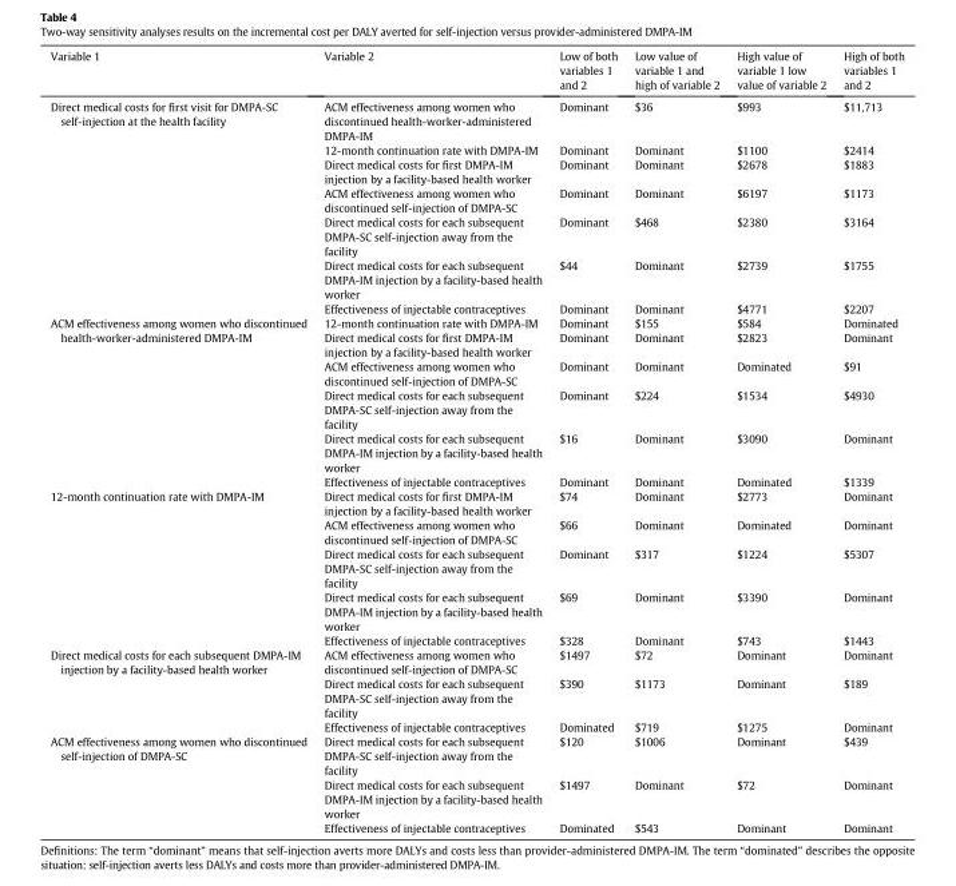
<table><thead><tr><td>Variable 1</td><td>Variable 2</td><td>Low of both variables 1 and 2</td><td>Low value of variable 1 and high of variable 2</td><td>High value of variable 1 low value of variable 2</td><td>High of both variables 1 and 2</td></tr></thead><tbody><tr><td rowspan="7">Direct medical costs for first visit for DMPA-SC self-injection at the health facility</td><td>ACM effectiveness among women who discontinued health-worker-administered DMPA-IM</td><td>Dominant</td><td>$36</td><td>$993</td><td>$11,713</td></tr><tr><td>12-month continuation rate with DMPA-IM</td><td>Dominant</td><td>Dominant</td><td>$1100</td><td>$2414</td></tr><tr><td>Direct medical costs for first DMPA-IM injection by a facility-based health worker</td><td>Dominant</td><td>Dominant</td><td>$2678</td><td>$1883</td></tr><tr><td>ACM effectiveness among women who discontinued self-injection of DMPA-SC</td><td>Dominant</td><td>Dominant</td><td>$6197</td><td>$1173</td></tr><tr><td>Direct medical costs for each subsequent DMPA-SC self-injection away from the facility</td><td>Dominant</td><td>$468</td><td>$2380</td><td>$3164</td></tr><tr><td>Direct medical costs for each subsequent DMPA-IM injection by a facility-based health worker</td><td>$44</td><td>Dominant</td><td>$2739</td><td>$1755</td></tr><tr><td>Effectiveness of injectable contraceptives</td><td>Dominant</td><td>Dominant</td><td>$4771</td><td>$2207</td></tr><tr><td rowspan="6">ACM effectiveness among women who discontinued health-worker-administered DMPA-IM</td><td>12-month continuation rate with DMPA-IM</td><td>Dominant</td><td>$155</td><td>$584</td><td>Dominated</td></tr><tr><td>Direct medical costs for first DMPA-IM injection by a facility-based health worker</td><td>Dominant</td><td>Dominant</td><td>$2823</td><td>Dominant</td></tr><tr><td>ACM effectiveness among women who discontinued self-injection of DMPA-SC</td><td>Dominant</td><td>Dominant</td><td>Dominated</td><td>$91</td></tr><tr><td>Direct medical costs for each subsequent DMPA-SC self-injection away from the facility</td><td>Dominant</td><td>$224</td><td>$1534</td><td>$4930</td></tr><tr><td>Direct medical costs for each subsequent DMPA-IM injection by a facility-based health worker</td><td>$16</td><td>Dominant</td><td>$3090</td><td>Dominant</td></tr><tr><td>Effectiveness of injectable contraceptives</td><td>Dominant</td><td>Dominant</td><td>Dominated</td><td>$1339</td></tr><tr><td rowspan="5">12-month continuation rate with DMPA-IM</td><td>Direct medical costs for first DMPA-IM injection by a facility-based health worker</td><td>$74</td><td>Dominant</td><td>$2773</td><td>Dominant</td></tr><tr><td>ACM effectiveness among women who discontinued self-injection of DMPA-SC</td><td>$66</td><td>Dominant</td><td>Dominated</td><td>Dominant</td></tr><tr><td>Direct medical costs for each subsequent DMPA-SC self-injection away from the facility</td><td>Dominant</td><td>$317</td><td>$1224</td><td>$5307</td></tr><tr><td>Direct medical costs for each subsequent DMPA-IM injection by a facility-based health worker</td><td>$69</td><td>Dominant</td><td>$3390</td><td>Dominant</td></tr><tr><td>Effectiveness of injectable contraceptives</td><td>$328</td><td>Dominant</td><td>$743</td><td>$1443</td></tr><tr><td rowspan="3">Direct medical costs for each subsequent DMPA-IM injection by a facility-based health worker</td><td>ACM effectiveness among women who discontinued self-injection of DMPA-SC</td><td>$1497</td><td>$72</td><td>Dominant</td><td>Dominant</td></tr><tr><td>Direct medical costs for each subsequent DMPA-SC self-injection away from the facility</td><td>$390</td><td>$1173</td><td>Dominant</td><td>$189</td></tr><tr><td>Effectiveness of injectable contraceptives</td><td>Dominated</td><td>$719</td><td>$1275</td><td>Dominant</td></tr><tr><td rowspan="3">ACM effectiveness among women who discontinued self-injection of DMPA-SC</td><td>Direct medical costs for each subsequent DMPA-SC self-injection away from the facility</td><td>$120</td><td>$1006</td><td>Dominant</td><td>$439</td></tr><tr><td>Direct medical costs for each subsequent DMPA-IM injection by a facility-based health worker</td><td>$1497</td><td>Dominant</td><td>$72</td><td>Dominant</td></tr><tr><td>Effectiveness of injectable contraceptives</td><td>Dominated</td><td>$543</td><td>Dominant</td><td>Dominant</td></tr></tbody></table>